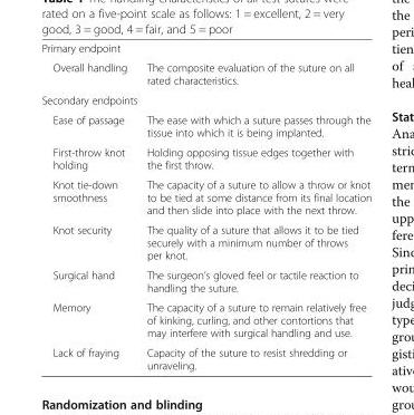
<table><tbody><tr><td colspan="2">Primary endpoint</td></tr><tr><td>Overall handling</td><td>The composite evaluation of the suture on all rated characteristics.</td></tr><tr><td colspan="2">Secondary endpoints</td></tr><tr><td>Ease of passage</td><td>The ease with which a suture passes through the tissue into which it is being implanted.</td></tr><tr><td>First-throw knot holding</td><td>Holding opposing tissue edges together with the first throw.</td></tr><tr><td>Knot tie-down smoothness</td><td>The capacity of a suture to allow a throw or knot to be tied at some distance from its final location and then slide into place with the next throw.</td></tr><tr><td>Knot security</td><td>The quality of a suture that allows it to be tied securely with a minimum number of throws per knot.</td></tr><tr><td>Surgical hand</td><td>The surgeon’s gloved feel or tactile reaction to handling the suture.</td></tr><tr><td>Memory</td><td>The capacity of a suture to remain relatively free of kinking, curling, and other contortions that may interfere with surgical handling and use.</td></tr><tr><td>Lack of fraying</td><td>Capacity of the suture to resist shredding or unraveling.</td></tr></tbody></table>